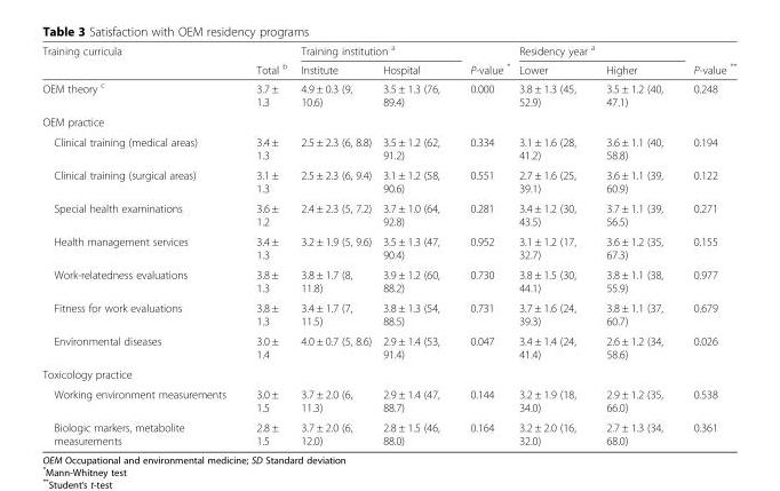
<table><thead><tr><td rowspan="2">Training curricula</td><td rowspan="2">Total <sup>b</sup></td><td colspan="2">Training institution <sup>a</sup></td><td rowspan="2">P-value *</td><td colspan="2">Residency year <sup>a</sup></td><td rowspan="2">P-value **</td></tr><tr><td>Institute</td><td>Hospital</td><td>Lower</td><td>Higher</td></tr></thead><tbody><tr><td>OEM theory <sup>c</sup></td><td>3.7 ± 1.3</td><td>4.9 ± 0.3 (9, 10.6)</td><td>3.5 ± 1.3 (76, 89.4)</td><td>0.000</td><td>3.8 ± 1.3 (45, 52.9)</td><td>3.5 ± 1.2 (40, 47.1)</td><td>0.248</td></tr><tr><td colspan="8">OEM practice</td></tr><tr><td>Clinical training (medical areas)</td><td>3.4 ± 1.3</td><td>2.5 ± 2.3 (6, 8.8)</td><td>3.5 ± 1.2 (62, 91.2)</td><td>0.334</td><td>3.1 ± 1.6 (28, 41.2)</td><td>3.6 ± 1.1 (40, 58.8)</td><td>0.194</td></tr><tr><td>Clinical training (surgical areas)</td><td>3.1 ± 1.3</td><td>2.5 ± 2.3 (6, 9.4)</td><td>3.1 ± 1.2 (58, 90.6)</td><td>0.551</td><td>2.7 ± 1.6 (25, 39.1)</td><td>3.6 ± 1.1 (39, 60.9)</td><td>0.122</td></tr><tr><td>Special health examinations</td><td>3.6 ± 1.2</td><td>2.4 ± 2.3 (5, 7.2)</td><td>3.7 ± 1.0 (64, 92.8)</td><td>0.281</td><td>3.4 ± 1.2 (30, 43.5)</td><td>3.7 ± 1.1 (39, 56.5)</td><td>0.271</td></tr><tr><td>Health management services</td><td>3.4 ± 1.3</td><td>3.2 ± 1.9 (5, 9.6)</td><td>3.5 ± 1.3 (47, 90.4)</td><td>0.952</td><td>3.1 ± 1.2 (17, 32.7)</td><td>3.6 ± 1.2 (35, 67.3)</td><td>0.155</td></tr><tr><td>Work-relatedness evaluations</td><td>3.8 ± 1.3</td><td>3.8 ± 1.7 (8, 11.8)</td><td>3.9 ± 1.2 (60, 88.2)</td><td>0.730</td><td>3.8 ± 1.5 (30, 44.1)</td><td>3.8 ± 1.1 (38, 55.9)</td><td>0.977</td></tr><tr><td>Fitness for work evaluations</td><td>3.8 ± 1.3</td><td>3.4 ± 1.7 (7, 11.5)</td><td>3.8 ± 1.3 (54, 88.5)</td><td>0.731</td><td>3.7 ± 1.6 (24, 39.3)</td><td>3.8 ± 1.1 (37, 60.7)</td><td>0.679</td></tr><tr><td>Environmental diseases</td><td>3.0 ± 1.4</td><td>4.0 ± 0.7 (5, 8.6)</td><td>2.9 ± 1.4 (53, 91.4)</td><td>0.047</td><td>3.4 ± 1.4 (24, 41.4)</td><td>2.6 ± 1.2 (34, 58.6)</td><td>0.026</td></tr><tr><td colspan="8">Toxicology practice</td></tr><tr><td>Working environment measurements</td><td>3.0 ± 1.5</td><td>3.7 ± 2.0 (6, 11.3)</td><td>2.9 ± 1.4 (47, 88.7)</td><td>0.144</td><td>3.2 ± 1.9 (18, 34.0)</td><td>2.9 ± 1.2 (35, 66.0)</td><td>0.538</td></tr><tr><td>Biologic markers, metabolite measurements</td><td>2.8 ± 1.5</td><td>3.7 ± 2.0 (6, 12.0)</td><td>2.8 ± 1.5 (46, 88.0)</td><td>0.164</td><td>3.2 ± 2.0 (16, 32.0)</td><td>2.7 ± 1.3 (34, 68.0)</td><td>0.361</td></tr></tbody></table>